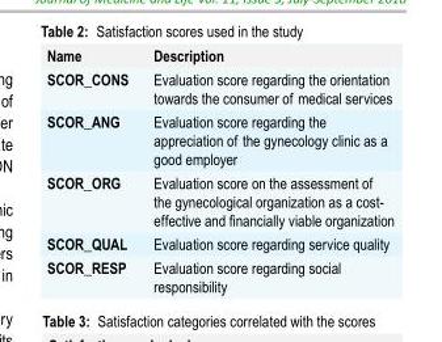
<table><thead><tr><td>Name</td><td>Description</td></tr></thead><tbody><tr><td>SCOR_CONS</td><td>Evaluation score regarding the orientation towards the consumer of medical services</td></tr><tr><td>SCOR_ANG</td><td>Evaluation score regarding the appreciation of the gynecology clinic as a good employer</td></tr><tr><td>SCOR_ORG</td><td>Evaluation score on the assessment of the gynecological organization as a cost- effective and financially viable organization</td></tr><tr><td>SCOR_QUAL</td><td>Evaluation score regarding service quality</td></tr><tr><td>SCOR_RESP</td><td>Evaluation score regarding social responsibility</td></tr></tbody></table>